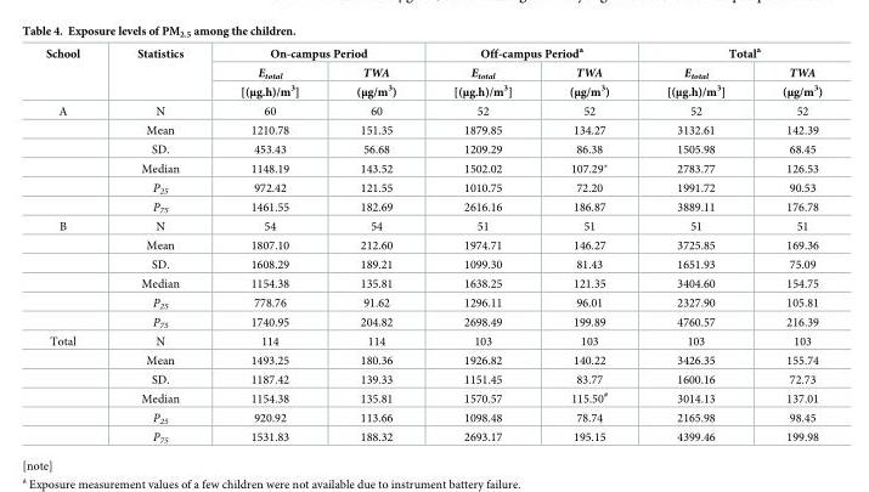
<table><thead><tr><td rowspan="3">School</td><td rowspan="3">Statistics</td><td colspan="2">On-campus Period</td><td colspan="2">Off-campus Period<sup>a</sup></td><td colspan="2">Total<sup>a</sup></td></tr><tr><td rowspan="2">E<sub>total</sub> [(μg.h)/m<sup>3</sup>]</td><td rowspan="2">TWA (μg/m<sup>3</sup>)</td><td rowspan="2">E<sub>total</sub> [(μg.h)/m<sup>3</sup>]</td><td rowspan="2">TWA (μg/m<sup>3</sup>)</td><td rowspan="2">E<sub>total</sub> [(μg.h)/m<sup>3</sup>]</td><td rowspan="2">TWA (μg/m<sup>3</sup>)</td></tr><tr></tr></thead><tbody><tr><td rowspan="6">A</td><td>N</td><td>60</td><td>60</td><td>52</td><td>52</td><td>52</td><td>52</td></tr><tr><td>Mean</td><td>1210.78</td><td>151.35</td><td>1879.85</td><td>134.27</td><td>3132.61</td><td>142.39</td></tr><tr><td>SD.</td><td>453.43</td><td>56.68</td><td>1209.29</td><td>86.38</td><td>1505.98</td><td>68.45</td></tr><tr><td>Median</td><td>1148.19</td><td>143.52</td><td>1502.02</td><td>107.29*</td><td>2783.77</td><td>126.53</td></tr><tr><td>P<sub>25</sub></td><td>972.42</td><td>121.55</td><td>1010.75</td><td>72.20</td><td>1991.72</td><td>90.53</td></tr><tr><td>P<sub>75</sub></td><td>1461.55</td><td>182.69</td><td>2616.16</td><td>186.87</td><td>3889.11</td><td>176.78</td></tr><tr><td rowspan="6">B</td><td>N</td><td>54</td><td>54</td><td>51</td><td>51</td><td>51</td><td>51</td></tr><tr><td>Mean</td><td>1807.10</td><td>212.60</td><td>1974.71</td><td>146.27</td><td>3725.85</td><td>169.36</td></tr><tr><td>SD.</td><td>1608.29</td><td>189.21</td><td>1099.30</td><td>81.43</td><td>1651.93</td><td>75.09</td></tr><tr><td>Median</td><td>1154.38</td><td>135.81</td><td>1638.25</td><td>121.35</td><td>3404.60</td><td>154.75</td></tr><tr><td>P<sub>25</sub></td><td>778.76</td><td>91.62</td><td>1296.11</td><td>96.01</td><td>2327.90</td><td>105.81</td></tr><tr><td>P<sub>75</sub></td><td>1740.95</td><td>204.82</td><td>2698.49</td><td>199.89</td><td>4760.57</td><td>216.39</td></tr><tr><td rowspan="6">Total</td><td>N</td><td>114</td><td>114</td><td>103</td><td>103</td><td>103</td><td>103</td></tr><tr><td>Mean</td><td>1493.25</td><td>180.36</td><td>1926.82</td><td>140.22</td><td>3426.35</td><td>155.74</td></tr><tr><td>SD.</td><td>1187.42</td><td>139.33</td><td>1151.45</td><td>83.77</td><td>1600.16</td><td>72.73</td></tr><tr><td>Median</td><td>1154.38</td><td>135.81</td><td>1570.57</td><td>115.50<sup>#</sup></td><td>3014.13</td><td>137.01</td></tr><tr><td>P<sub>25</sub></td><td>920.92</td><td>113.66</td><td>1098.48</td><td>78.74</td><td>2165.98</td><td>98.45</td></tr><tr><td>P<sub>75</sub></td><td>1531.83</td><td>188.32</td><td>2693.17</td><td>195.15</td><td>4399.46</td><td>199.98</td></tr></tbody></table>